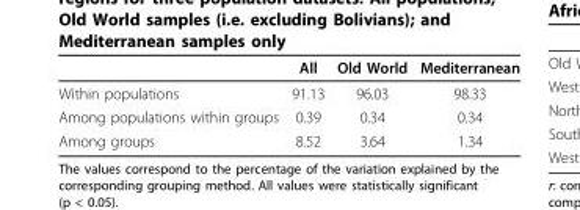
<table><thead><tr><td></td><td>All</td><td>Old World</td><td>Mediterranean</td></tr></thead><tbody><tr><td>Within populations</td><td>91.13</td><td>96.03</td><td>98.33</td></tr><tr><td>Among populations within groups</td><td>0.39</td><td>0.34</td><td>0.34</td></tr><tr><td>Among groups</td><td>8.52</td><td>3.64</td><td>1.34</td></tr></tbody></table>